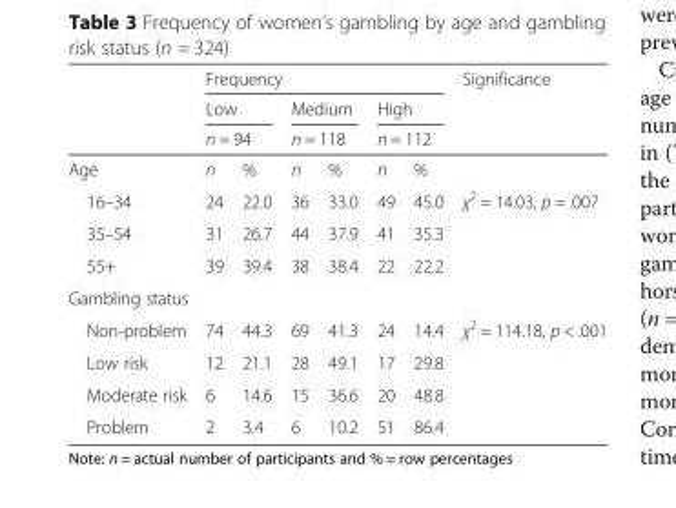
<table><thead><tr><td rowspan="4">Age</td><td colspan="6">Frequency</td><td rowspan="4">Significance</td></tr><tr><td rowspan="2" colspan="2">Low n = 94</td><td rowspan="2" colspan="2">Medium n = 118</td><td rowspan="2" colspan="2">High n = 112</td></tr><tr></tr><tr><td>n</td><td>%</td><td>n</td><td>%</td><td>n</td><td>%</td></tr></thead><tbody><tr><td>16–34</td><td>24</td><td>22.0</td><td>36</td><td>33.0</td><td>49</td><td>45.0</td><td rowspan="3">χ<sup>2</sup> = 14.03, p = .007</td></tr><tr><td>35–54</td><td>31</td><td>26.7</td><td>44</td><td>37.9</td><td>41</td><td>35.3</td></tr><tr><td>55+</td><td>39</td><td>39.4</td><td>38</td><td>38.4</td><td>22</td><td>22.2</td></tr><tr><td colspan="8">Gambling status</td></tr><tr><td>Non-problem</td><td>74</td><td>44.3</td><td>69</td><td>41.3</td><td>24</td><td>14.4</td><td rowspan="4">χ<sup>2</sup> = 114.18, p &lt; .001</td></tr><tr><td>Low risk</td><td>12</td><td>21.1</td><td>28</td><td>49.1</td><td>17</td><td>29.8</td></tr><tr><td>Moderate risk</td><td>6</td><td>14.6</td><td>15</td><td>36.6</td><td>20</td><td>48.8</td></tr><tr><td>Problem</td><td>2</td><td>3.4</td><td>6</td><td>10.2</td><td>51</td><td>86.4</td></tr></tbody></table>